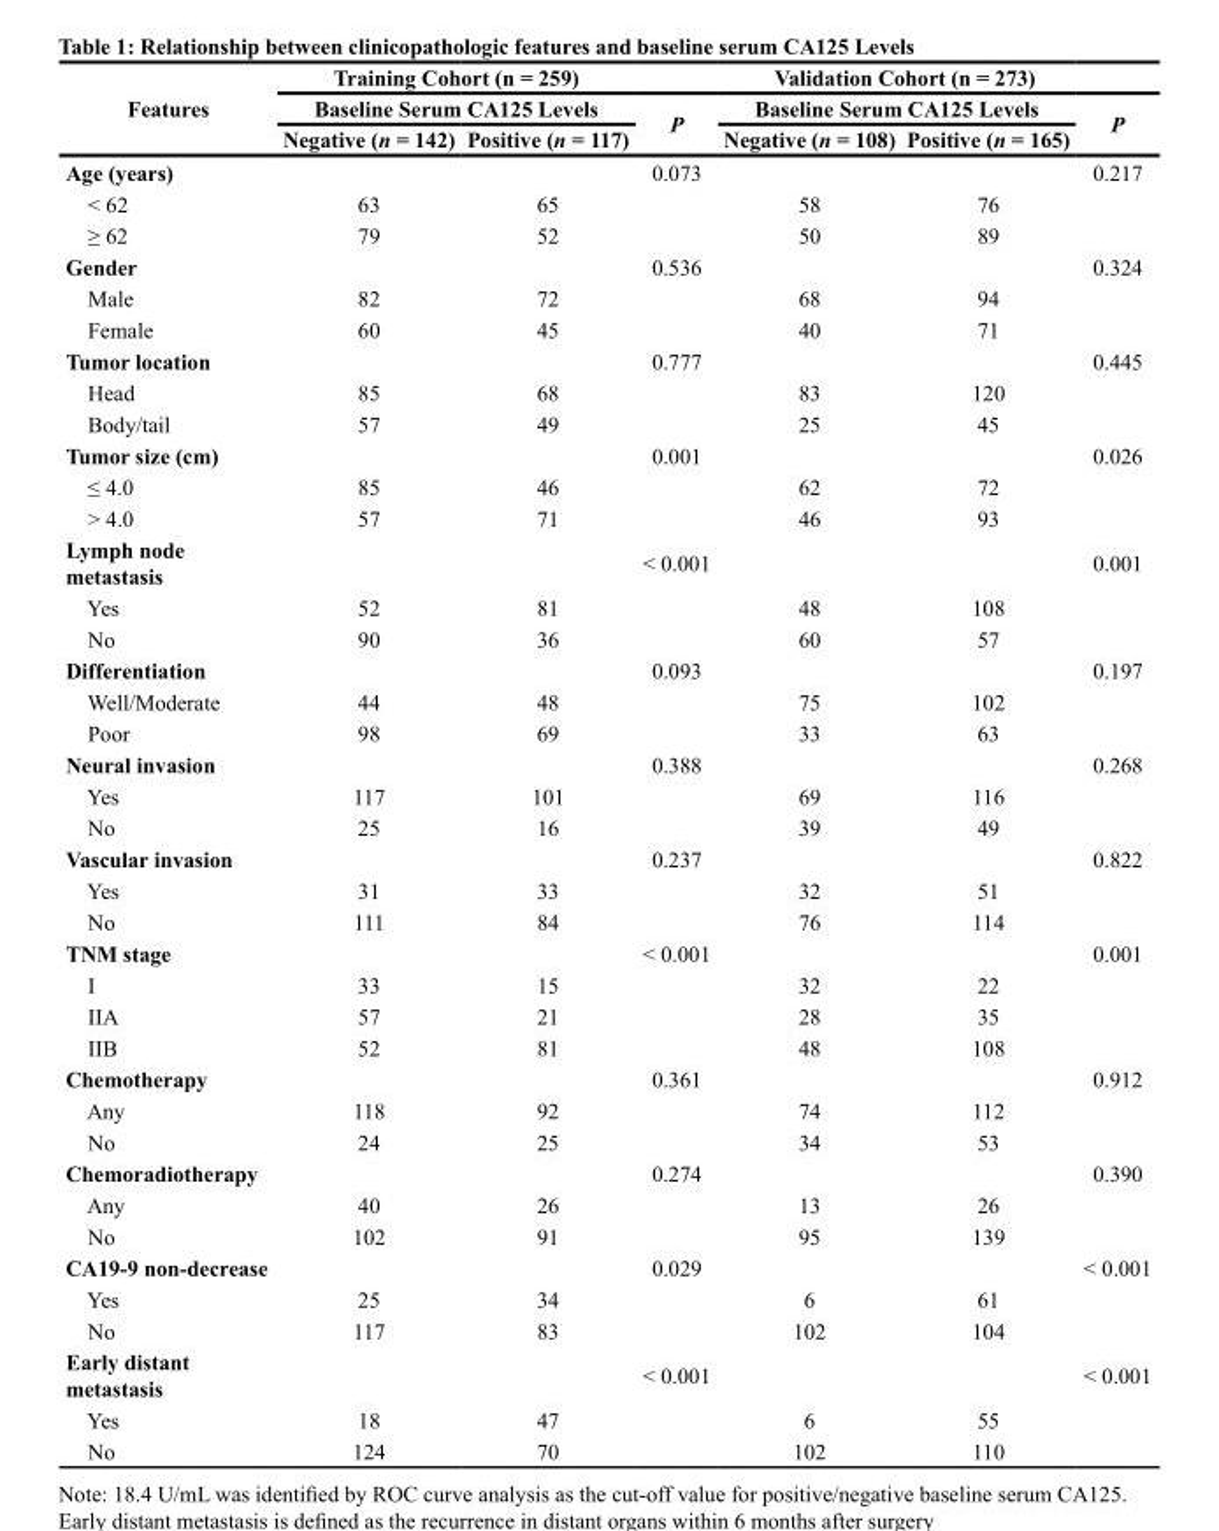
<table><thead><tr><td rowspan="3">Features</td><td rowspan="2" colspan="2">Training Cohort (n = 259) Baseline Serum CA125 Levels</td><td rowspan="3">P</td><td rowspan="2" colspan="2">Validation Cohort (n = 273) Baseline Serum CA125 Levels</td><td rowspan="3">P</td></tr><tr></tr><tr><td>Negative (n = 142)</td><td>Positive (n = 117)</td><td>Negative (n = 108)</td><td>Positive (n = 165)</td></tr></thead><tbody><tr><td>Age (years)</td><td></td><td></td><td>0.073</td><td></td><td></td><td>0.217</td></tr><tr><td>&lt; 62</td><td>63</td><td>65</td><td></td><td>58</td><td>76</td><td></td></tr><tr><td>≥ 62</td><td>79</td><td>52</td><td></td><td>50</td><td>89</td><td></td></tr><tr><td>Gender</td><td></td><td></td><td>0.536</td><td></td><td></td><td>0.324</td></tr><tr><td>Male</td><td>82</td><td>72</td><td></td><td>68</td><td>94</td><td></td></tr><tr><td>Female</td><td>60</td><td>45</td><td></td><td>40</td><td>71</td><td></td></tr><tr><td>Tumor location</td><td></td><td></td><td>0.777</td><td></td><td></td><td>0.445</td></tr><tr><td>Head</td><td>85</td><td>68</td><td></td><td>83</td><td>120</td><td></td></tr><tr><td>Body/tail</td><td>57</td><td>49</td><td></td><td>25</td><td>45</td><td></td></tr><tr><td>Tumor size (cm)</td><td></td><td></td><td>0.001</td><td></td><td></td><td>0.026</td></tr><tr><td>≤ 4.0</td><td>85</td><td>46</td><td></td><td>62</td><td>72</td><td></td></tr><tr><td>&gt; 4.0</td><td>57</td><td>71</td><td></td><td>46</td><td>93</td><td></td></tr><tr><td>Lymph node metastasis</td><td></td><td></td><td>&lt; 0.001</td><td></td><td></td><td>0.001</td></tr><tr><td>Yes</td><td>52</td><td>81</td><td></td><td>48</td><td>108</td><td></td></tr><tr><td>No</td><td>90</td><td>36</td><td></td><td>60</td><td>57</td><td></td></tr><tr><td>Differentiation</td><td></td><td></td><td>0.093</td><td></td><td></td><td>0.197</td></tr><tr><td>Well/Moderate</td><td>44</td><td>48</td><td></td><td>75</td><td>102</td><td></td></tr><tr><td>Poor</td><td>98</td><td>69</td><td></td><td>33</td><td>63</td><td></td></tr><tr><td>Neural invasion</td><td></td><td></td><td>0.388</td><td></td><td></td><td>0.268</td></tr><tr><td>Yes</td><td>117</td><td>101</td><td></td><td>69</td><td>116</td><td></td></tr><tr><td>No</td><td>25</td><td>16</td><td></td><td>39</td><td>49</td><td></td></tr><tr><td>Vascular invasion</td><td></td><td></td><td>0.237</td><td></td><td></td><td>0.822</td></tr><tr><td>Yes</td><td>31</td><td>33</td><td></td><td>32</td><td>51</td><td></td></tr><tr><td>No</td><td>111</td><td>84</td><td></td><td>76</td><td>114</td><td></td></tr><tr><td>TNM stage</td><td></td><td></td><td>&lt; 0.001</td><td></td><td></td><td>0.001</td></tr><tr><td>I</td><td>33</td><td>15</td><td></td><td>32</td><td>22</td><td></td></tr><tr><td>IIA</td><td>57</td><td>21</td><td></td><td>28</td><td>35</td><td></td></tr><tr><td>IIB</td><td>52</td><td>81</td><td></td><td>48</td><td>108</td><td></td></tr><tr><td>Chemotherapy</td><td></td><td></td><td>0.361</td><td></td><td></td><td>0.912</td></tr><tr><td>Any</td><td>118</td><td>92</td><td></td><td>74</td><td>112</td><td></td></tr><tr><td>No</td><td>24</td><td>25</td><td></td><td>34</td><td>53</td><td></td></tr><tr><td>Chemoradiotherapy</td><td></td><td></td><td>0.274</td><td></td><td></td><td>0.390</td></tr><tr><td>Any</td><td>40</td><td>26</td><td></td><td>13</td><td>26</td><td></td></tr><tr><td>No</td><td>102</td><td>91</td><td></td><td>95</td><td>139</td><td></td></tr><tr><td>CA19-9 non-decrease</td><td></td><td></td><td>0.029</td><td></td><td></td><td>&lt; 0.001</td></tr><tr><td>Yes</td><td>25</td><td>34</td><td></td><td>6</td><td>61</td><td></td></tr><tr><td>No</td><td>117</td><td>83</td><td></td><td>102</td><td>104</td><td></td></tr><tr><td>Early distant metastasis</td><td></td><td></td><td>&lt; 0.001</td><td></td><td></td><td>&lt; 0.001</td></tr><tr><td>Yes</td><td>18</td><td>47</td><td></td><td>6</td><td>55</td><td></td></tr><tr><td>No</td><td>124</td><td>70</td><td></td><td>102</td><td>110</td><td></td></tr></tbody></table>